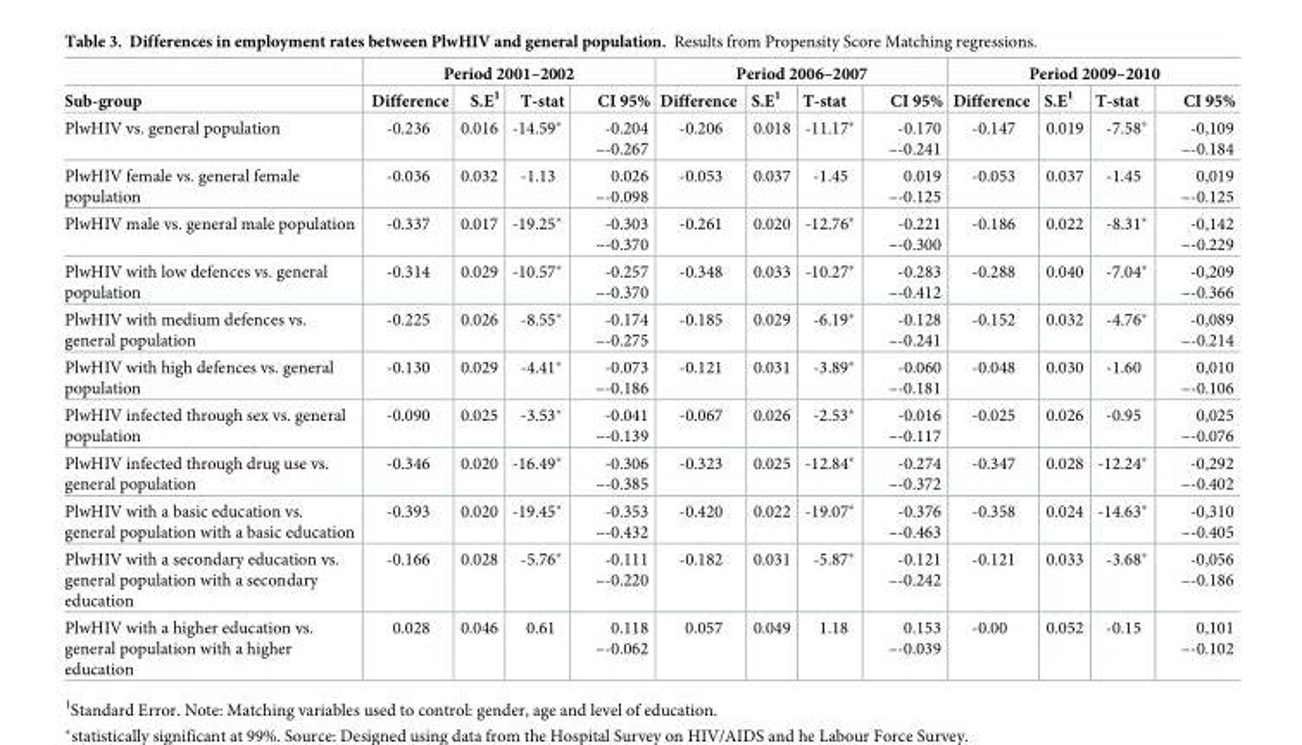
<table><thead><tr><td rowspan="2">Sub-group</td><td colspan="4">Period 2001–2002</td><td colspan="4">Period 2006–2007</td><td colspan="4">Period 2009–2010</td></tr><tr><td>Difference</td><td>S.E<sup>1</sup></td><td>T-stat</td><td>CI 95%</td><td>Difference</td><td>S.E<sup>1</sup></td><td>T-stat</td><td>CI 95%</td><td>Difference</td><td>S.E<sup>1</sup></td><td>T-stat</td><td>CI 95%</td></tr></thead><tbody><tr><td>PlwHIV vs. general population</td><td>-0.236</td><td>0.016</td><td>-14.59*</td><td>-0.204 –-0.267</td><td>-0.206</td><td>0.018</td><td>-11.17*</td><td>-0.170 –-0.241</td><td>-0.147</td><td>0.019</td><td>-7.58*</td><td>-0,109 –-0.184</td></tr><tr><td>PlwHIV female vs. general female population</td><td>-0.036</td><td>0.032</td><td>-1.13</td><td>0.026 –-0.098</td><td>-0.053</td><td>0.037</td><td>-1.45</td><td>0.019 –-0.125</td><td>-0.053</td><td>0.037</td><td>-1.45</td><td>0,019 –-0.125</td></tr><tr><td>PlwHIV male vs. general male population</td><td>-0.337</td><td>0.017</td><td>-19.25*</td><td>-0.303 –-0.370</td><td>-0.261</td><td>0.020</td><td>-12.76*</td><td>-0.221 –-0.300</td><td>-0.186</td><td>0.022</td><td>-8.31*</td><td>-0,142 –-0.229</td></tr><tr><td>PlwHIV with low defences vs. general population</td><td>-0.314</td><td>0.029</td><td>-10.57*</td><td>-0.257 –-0.370</td><td>-0.348</td><td>0.033</td><td>-10.27*</td><td>-0.283 –-0.412</td><td>-0.288</td><td>0.040</td><td>-7.04*</td><td>-0,209 –-0.366</td></tr><tr><td>PlwHIV with medium defences vs. general population</td><td>-0.225</td><td>0.026</td><td>-8.55*</td><td>-0.174 –-0.275</td><td>-0.185</td><td>0.029</td><td>-6.19*</td><td>-0.128 –-0.241</td><td>-0.152</td><td>0.032</td><td>-4.76*</td><td>-0,089 –-0.214</td></tr><tr><td>PlwHIV with high defences vs. general population</td><td>-0.130</td><td>0.029</td><td>-4.41*</td><td>-0.073 –-0.186</td><td>-0.121</td><td>0.031</td><td>-3.89*</td><td>-0.060 –-0.181</td><td>-0.048</td><td>0.030</td><td>-1.60</td><td>0,010 –-0.106</td></tr><tr><td>PlwHIV infected through sex vs. general population</td><td>-0.090</td><td>0.025</td><td>-3.53*</td><td>-0.041 –-0.139</td><td>-0.067</td><td>0.026</td><td>-2.53*</td><td>-0.016 –-0.117</td><td>-0.025</td><td>0.026</td><td>-0.95</td><td>0,025 –-0.076</td></tr><tr><td>PlwHIV infected through drug use vs. general population</td><td>-0.346</td><td>0.020</td><td>-16.49*</td><td>-0.306 –-0.385</td><td>-0.323</td><td>0.025</td><td>-12.84*</td><td>-0.274 –-0.372</td><td>-0.347</td><td>0.028</td><td>-12.24*</td><td>-0,292 –-0.402</td></tr><tr><td>PlwHIV with a basic education vs. general population with a basic education</td><td>-0.393</td><td>0.020</td><td>-19.45*</td><td>-0.353 –-0.432</td><td>-0.420</td><td>0.022</td><td>-19.07*</td><td>-0.376 –-0.463</td><td>-0.358</td><td>0.024</td><td>-14.63*</td><td>-0,310 –-0.405</td></tr><tr><td>PlwHIV with a secondary education vs. general population with a secondary education</td><td>-0.166</td><td>0.028</td><td>-5.76*</td><td>-0.111 –-0.220</td><td>-0.182</td><td>0.031</td><td>-5.87*</td><td>-0.121 –-0.242</td><td>-0.121</td><td>0.033</td><td>-3.68*</td><td>-0,056 –-0.186</td></tr><tr><td>PlwHIV with a higher education vs. general population with a higher education</td><td>0.028</td><td>0.046</td><td>0.61</td><td>0.118 –-0.062</td><td>0.057</td><td>0.049</td><td>1.18</td><td>0.153 –-0.039</td><td>-0.00</td><td>0.052</td><td>-0.15</td><td>0,101 –-0.102</td></tr></tbody></table>